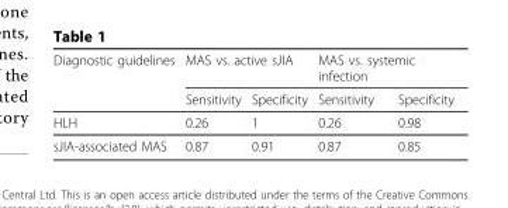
<table><thead><tr><td rowspan="2">Diagnostic guidelines</td><td colspan="2">MAS vs. active sJIA</td><td colspan="2">MAS vs. systemic infection</td></tr><tr><td>Sensitivity</td><td>Specificity</td><td>Sensitivity</td><td>Specificity</td></tr></thead><tbody><tr><td>HLH</td><td>0.26</td><td>1</td><td>0.26</td><td>0.98</td></tr><tr><td>sJIA-associated MAS</td><td>0.87</td><td>0.91</td><td>0.87</td><td>0.85</td></tr></tbody></table>